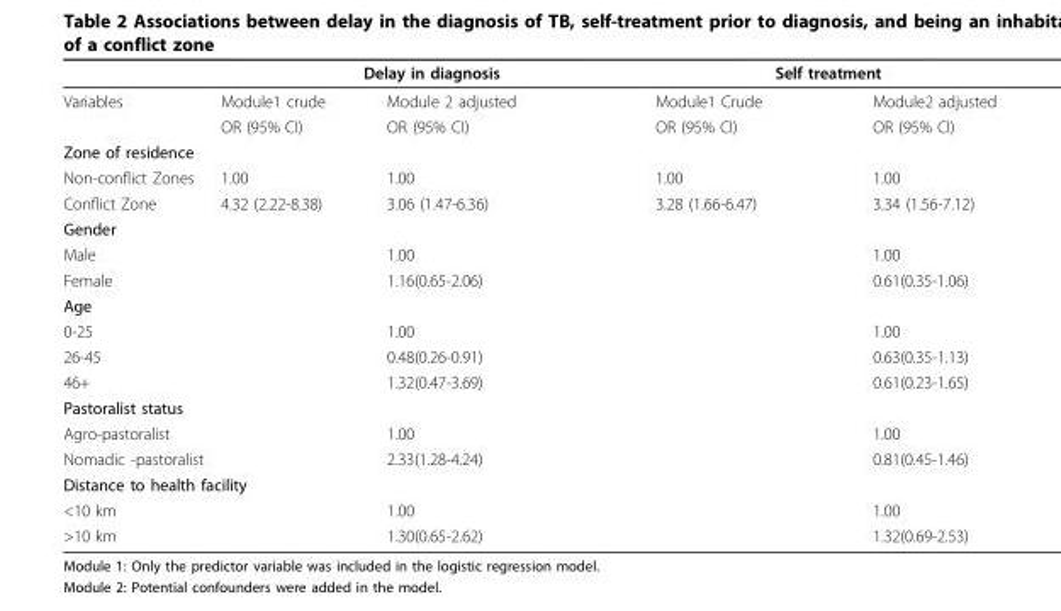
<table><thead><tr><td rowspan="2">Variables</td><td colspan="2">Delay in diagnosis</td><td colspan="2">Self treatment</td></tr><tr><td>Module1 crude</td><td>Module 2 adjusted</td><td>Module1 Crude</td><td>Module2 adjusted</td></tr></thead><tbody><tr><td></td><td>OR (95% CI)</td><td>OR (95% CI)</td><td>OR (95% CI)</td><td>OR (95% CI)</td></tr><tr><td colspan="5">Zone of residence</td></tr><tr><td>Non-conflict Zones</td><td>1.00</td><td>1.00</td><td>1.00</td><td>1.00</td></tr><tr><td>Conflict Zone</td><td>4.32 (2.22-8.38)</td><td>3.06 (1.47-6.36)</td><td>3.28 (1.66-6.47)</td><td>3.34 (1.56-7.12)</td></tr><tr><td colspan="5">Gender</td></tr><tr><td>Male</td><td></td><td>1.00</td><td></td><td>1.00</td></tr><tr><td>Female</td><td></td><td>1.16(0.65-2.06)</td><td></td><td>0.61(0.35-1.06)</td></tr><tr><td colspan="5">Age</td></tr><tr><td>0-25</td><td></td><td>1.00</td><td></td><td>1.00</td></tr><tr><td>26-45</td><td></td><td>0.48(0.26-0.91)</td><td></td><td>0.63(0.35-1.13)</td></tr><tr><td>46+</td><td></td><td>1.32(0.47-3.69)</td><td></td><td>0.61(0.23-1.65)</td></tr><tr><td colspan="5">Pastoralist status</td></tr><tr><td>Agro-pastoralist</td><td></td><td>1.00</td><td></td><td>1.00</td></tr><tr><td>Nomadic -pastoralist</td><td></td><td>2.33(1.28-4.24)</td><td></td><td>0.81(0.45-1.46)</td></tr><tr><td colspan="5">Distance to health facility</td></tr><tr><td>&lt;10 km</td><td></td><td>1.00</td><td></td><td>1.00</td></tr><tr><td>&gt;10 km</td><td></td><td>1.30(0.65-2.62)</td><td></td><td>1.32(0.69-2.53)</td></tr></tbody></table>